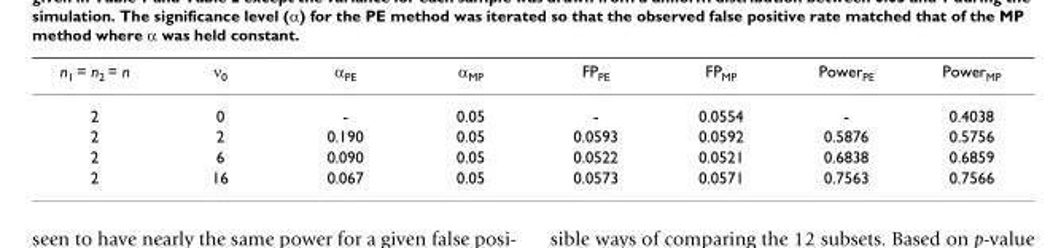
<table><thead><tr><td>n<sub>1</sub> = n<sub>2</sub> = n</td><td>ν<sub>0</sub></td><td>α<sub>PE</sub></td><td>α<sub>MP</sub></td><td>FP<sub>PE</sub></td><td>FP<sub>MP</sub></td><td>Power<sub>PE</sub></td><td>Power<sub>MP</sub></td></tr></thead><tbody><tr><td>2</td><td>0</td><td>-</td><td>0.05</td><td>-</td><td>0.0554</td><td>-</td><td>0.4038</td></tr><tr><td>2</td><td>2</td><td>0.190</td><td>0.05</td><td>0.0593</td><td>0.0592</td><td>0.5876</td><td>0.5756</td></tr><tr><td>2</td><td>6</td><td>0.090</td><td>0.05</td><td>0.0522</td><td>0.0521</td><td>0.6838</td><td>0.6859</td></tr><tr><td>2</td><td>16</td><td>0.067</td><td>0.05</td><td>0.0573</td><td>0.0571</td><td>0.7563</td><td>0.7566</td></tr></tbody></table>